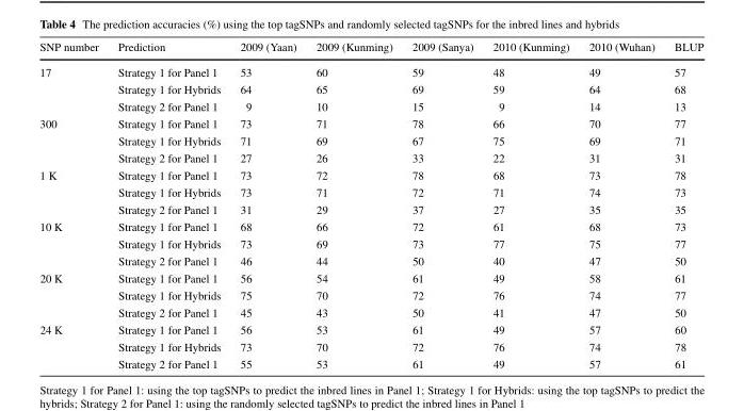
<table><thead><tr><td>SNP number</td><td>Prediction</td><td>2009 (Yaan)</td><td>2009 (Kunming)</td><td>2009 (Sanya)</td><td>2010 (Kunming)</td><td>2010 (Wuhan)</td><td>BLUP</td></tr></thead><tbody><tr><td rowspan="3">17</td><td>Strategy 1 for Panel 1</td><td>53</td><td>60</td><td>59</td><td>48</td><td>49</td><td>57</td></tr><tr><td>Strategy 1 for Hybrids</td><td>64</td><td>65</td><td>69</td><td>59</td><td>64</td><td>68</td></tr><tr><td>Strategy 2 for Panel 1</td><td>9</td><td>10</td><td>15</td><td>9</td><td>14</td><td>13</td></tr><tr><td rowspan="3">300</td><td>Strategy 1 for Panel 1</td><td>73</td><td>71</td><td>78</td><td>66</td><td>70</td><td>77</td></tr><tr><td>Strategy 1 for Hybrids</td><td>71</td><td>69</td><td>67</td><td>75</td><td>69</td><td>71</td></tr><tr><td>Strategy 2 for Panel 1</td><td>27</td><td>26</td><td>33</td><td>22</td><td>31</td><td>31</td></tr><tr><td rowspan="3">1 K</td><td>Strategy 1 for Panel 1</td><td>73</td><td>72</td><td>78</td><td>68</td><td>73</td><td>78</td></tr><tr><td>Strategy 1 for Hybrids</td><td>73</td><td>71</td><td>72</td><td>71</td><td>74</td><td>73</td></tr><tr><td>Strategy 2 for Panel 1</td><td>31</td><td>29</td><td>37</td><td>27</td><td>35</td><td>35</td></tr><tr><td rowspan="3">10 K</td><td>Strategy 1 for Panel 1</td><td>68</td><td>66</td><td>72</td><td>61</td><td>68</td><td>73</td></tr><tr><td>Strategy 1 for Hybrids</td><td>73</td><td>69</td><td>73</td><td>77</td><td>75</td><td>77</td></tr><tr><td>Strategy 2 for Panel 1</td><td>46</td><td>44</td><td>50</td><td>40</td><td>47</td><td>50</td></tr><tr><td rowspan="3">20 K</td><td>Strategy 1 for Panel 1</td><td>56</td><td>54</td><td>61</td><td>49</td><td>58</td><td>61</td></tr><tr><td>Strategy 1 for Hybrids</td><td>75</td><td>70</td><td>72</td><td>76</td><td>74</td><td>77</td></tr><tr><td>Strategy 2 for Panel 1</td><td>45</td><td>43</td><td>50</td><td>41</td><td>47</td><td>50</td></tr><tr><td rowspan="3">24 K</td><td>Strategy 1 for Panel 1</td><td>56</td><td>53</td><td>61</td><td>49</td><td>57</td><td>60</td></tr><tr><td>Strategy 1 for Hybrids</td><td>73</td><td>70</td><td>72</td><td>76</td><td>74</td><td>78</td></tr><tr><td>Strategy 2 for Panel 1</td><td>55</td><td>53</td><td>61</td><td>49</td><td>57</td><td>61</td></tr></tbody></table>